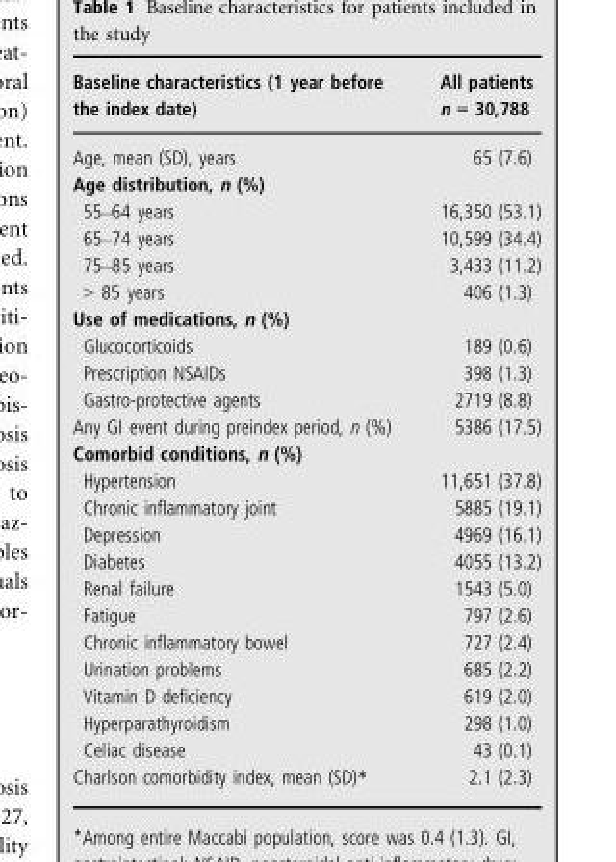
<table><thead><tr><td>Baseline characteristics (1 year before the index date)</td><td>All patients n = 30,788</td></tr></thead><tbody><tr><td>Age, mean (SD), years</td><td>65 (7.6)</td></tr><tr><td colspan="2">Age distribution, n (%)</td></tr><tr><td>55–64 years</td><td>16,350 (53.1)</td></tr><tr><td>65–74 years</td><td>10,599 (34.4)</td></tr><tr><td>75–85 years</td><td>3,433 (11.2)</td></tr><tr><td>&gt; 85 years</td><td>406 (1.3)</td></tr><tr><td colspan="2">Use of medications, n (%)</td></tr><tr><td>Glucocorticoids</td><td>189 (0.6)</td></tr><tr><td>Prescription NSAIDs</td><td>398 (1.3)</td></tr><tr><td>Gastro-protective agents</td><td>2719 (8.8)</td></tr><tr><td>Any GI event during preindex period, n (%)</td><td>5386 (17.5)</td></tr><tr><td colspan="2">Comorbid conditions, n (%)</td></tr><tr><td>Hypertension</td><td>11,651 (37.8)</td></tr><tr><td>Chronic inflammatory joint</td><td>5885 (19.1)</td></tr><tr><td>Depression</td><td>4969 (16.1)</td></tr><tr><td>Diabetes</td><td>4055 (13.2)</td></tr><tr><td>Renal failure</td><td>1543 (5.0)</td></tr><tr><td>Fatigue</td><td>797 (2.6)</td></tr><tr><td>Chronic inflammatory bowel</td><td>727 (2.4)</td></tr><tr><td>Urination problems</td><td>685 (2.2)</td></tr><tr><td>Vitamin D deficiency</td><td>619 (2.0)</td></tr><tr><td>Hyperparathyroidism</td><td>298 (1.0)</td></tr><tr><td>Celiac disease</td><td>43 (0.1)</td></tr><tr><td>Charlson comorbidity index, mean (SD)*</td><td>2.1 (2.3)</td></tr></tbody></table>